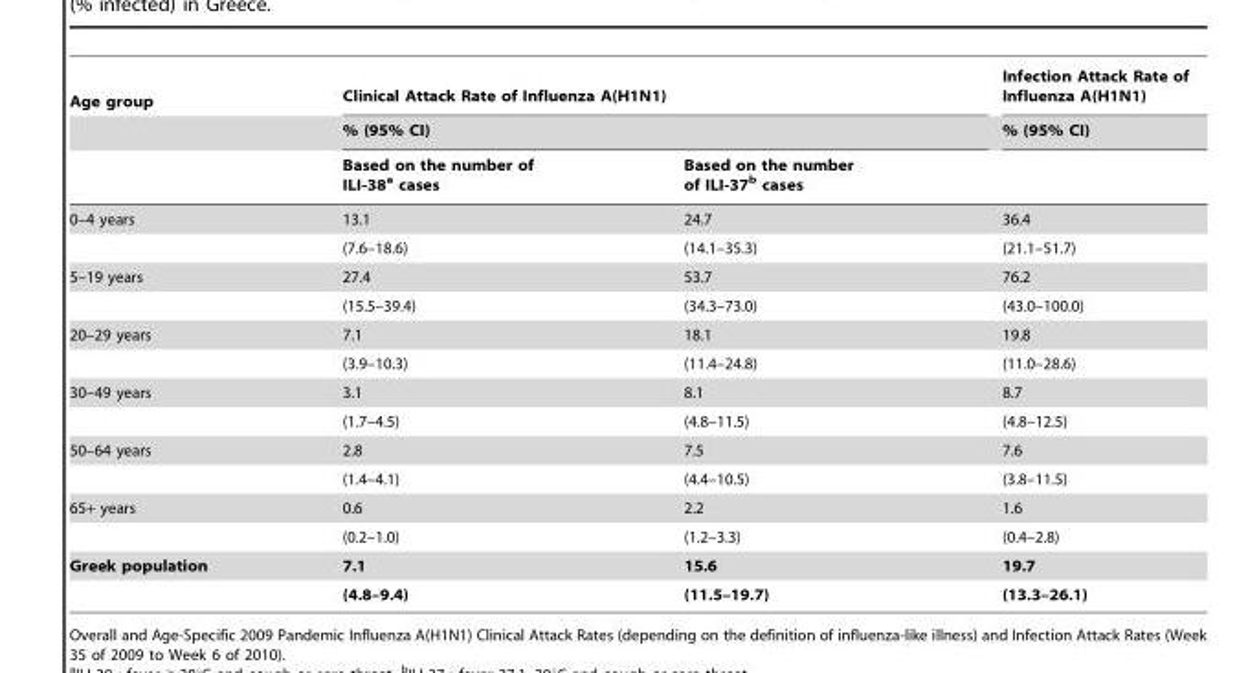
<table><thead><tr><td rowspan="3">Age group</td><td rowspan="2" colspan="2">Clinical Attack Rate of Influenza A(H1N1) % (95% CI)</td><td rowspan="3">Infection Attack Rate of Influenza A(H1N1) % (95% CI)</td></tr><tr></tr><tr><td>Based on the number of ILI-38<sup>a</sup> cases</td><td>Based on the number of ILI-37<sup>b</sup> cases</td></tr></thead><tbody><tr><td rowspan="2">0–4 years</td><td>13.1</td><td>24.7</td><td>36.4</td></tr><tr><td>(7.6–18.6)</td><td>(14.1–35.3)</td><td>(21.1–51.7)</td></tr><tr><td rowspan="2">5–19 years</td><td>27.4</td><td>53.7</td><td>76.2</td></tr><tr><td>(15.5–39.4)</td><td>(34.3–73.0)</td><td>(43.0–100.0)</td></tr><tr><td rowspan="2">20–29 years</td><td>7.1</td><td>18.1</td><td>19.8</td></tr><tr><td>(3.9–10.3)</td><td>(11.4–24.8)</td><td>(11.0–28.6)</td></tr><tr><td rowspan="2">30–49 years</td><td>3.1</td><td>8.1</td><td>8.7</td></tr><tr><td>(1.7–4.5)</td><td>(4.8–11.5)</td><td>(4.8–12.5)</td></tr><tr><td rowspan="2">50–64 years</td><td>2.8</td><td>7.5</td><td>7.6</td></tr><tr><td>(1.4–4.1)</td><td>(4.4–10.5)</td><td>(3.8–11.5)</td></tr><tr><td rowspan="2">65+ years</td><td>0.6</td><td>2.2</td><td>1.6</td></tr><tr><td>(0.2–1.0)</td><td>(1.2–3.3)</td><td>(0.4–2.8)</td></tr><tr><td rowspan="2">Greek population</td><td>7.1</td><td>15.6</td><td>19.7</td></tr><tr><td>(4.8–9.4)</td><td>(11.5–19.7)</td><td>(13.3–26.1)</td></tr></tbody></table>